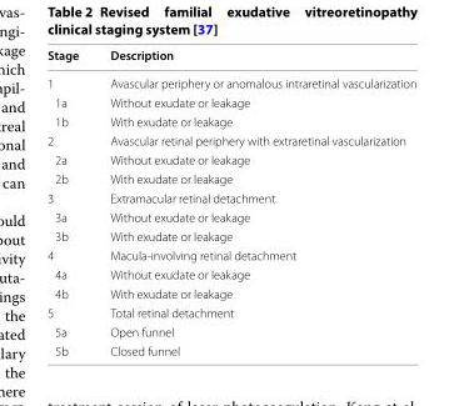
<table><thead><tr><td>Stage</td><td>Description</td></tr></thead><tbody><tr><td>1</td><td>Avascular periphery or anomalous intraretinal vascularization</td></tr><tr><td>1a</td><td>Without exudate or leakage</td></tr><tr><td>1b</td><td>With exudate or leakage</td></tr><tr><td>2</td><td>Avascular retinal periphery with extraretinal vascularization</td></tr><tr><td>2a</td><td>Without exudate or leakage</td></tr><tr><td>2b</td><td>With exudate or leakage</td></tr><tr><td>3</td><td>Extramacular retinal detachment</td></tr><tr><td>3a</td><td>Without exudate or leakage</td></tr><tr><td>3b</td><td>With exudate or leakage</td></tr><tr><td>4</td><td>Macula-involving retinal detachment</td></tr><tr><td>4a</td><td>Without exudate or leakage</td></tr><tr><td>4b</td><td>With exudate or leakage</td></tr><tr><td>5</td><td>Total retinal detachment</td></tr><tr><td>5a</td><td>Open funnel</td></tr><tr><td>5b</td><td>Closed funnel</td></tr></tbody></table>